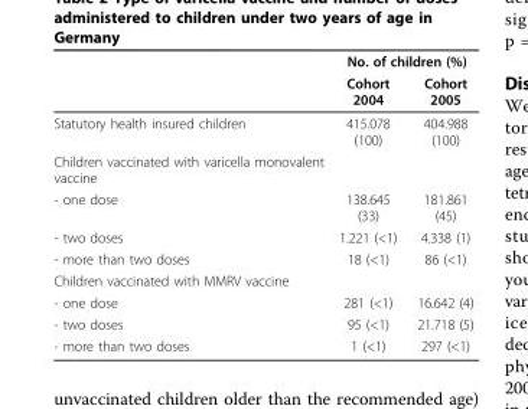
<table><thead><tr><td rowspan="2"></td><td colspan="2">No. of children (%)</td></tr><tr><td>Cohort 2004</td><td>Cohort 2005</td></tr></thead><tbody><tr><td>Statutory health insured children</td><td>415.078 (100)</td><td>404.988 (100)</td></tr><tr><td colspan="3">Children vaccinated with varicella monovalent vaccine</td></tr><tr><td>- one dose</td><td>138.645 (33)</td><td>181.861 (45)</td></tr><tr><td>- two doses</td><td>1.221 (&lt;1)</td><td>4.338 (1)</td></tr><tr><td>- more than two doses</td><td>18 (&lt;1)</td><td>86 (&lt;1)</td></tr><tr><td colspan="3">Children vaccinated with MMRV vaccine</td></tr><tr><td>- one dose</td><td>281 (&lt;1)</td><td>16.642 (4)</td></tr><tr><td>- two doses</td><td>95 (&lt;1)</td><td>21.718 (5)</td></tr><tr><td>- more than two doses</td><td>1 (&lt;1)</td><td>297 (&lt;1)</td></tr></tbody></table>